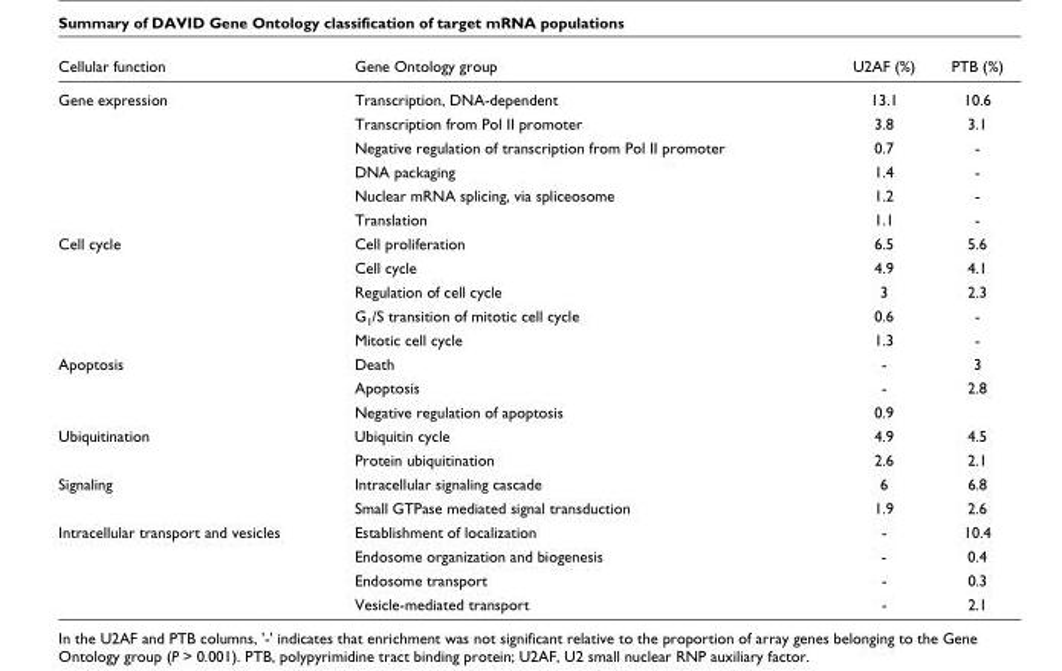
<table><thead><tr><td>Cellular function</td><td>Gene Ontology group</td><td>U2AF (%)</td><td>PTB (%)</td></tr></thead><tbody><tr><td rowspan="6">Gene expression</td><td>Transcription, DNA-dependent</td><td>13.1</td><td>10.6</td></tr><tr><td>Transcription from Pol II promoter</td><td>3.8</td><td>3.1</td></tr><tr><td>Negative regulation of transcription from Pol II promoter</td><td>0.7</td><td>-</td></tr><tr><td>DNA packaging</td><td>1.4</td><td>-</td></tr><tr><td>Nuclear mRNA splicing, via spliceosome</td><td>1.2</td><td>-</td></tr><tr><td>Translation</td><td>1.1</td><td>-</td></tr><tr><td rowspan="5">Cell cycle</td><td>Cell proliferation</td><td>6.5</td><td>5.6</td></tr><tr><td>Cell cycle</td><td>4.9</td><td>4.1</td></tr><tr><td>Regulation of cell cycle</td><td>3</td><td>2.3</td></tr><tr><td>G1/S transition of mitotic cell cycle</td><td>0.6</td><td>-</td></tr><tr><td>Mitotic cell cycle</td><td>1.3</td><td>-</td></tr><tr><td rowspan="3">Apoptosis</td><td>Death</td><td>-</td><td>3</td></tr><tr><td>Apoptosis</td><td>-</td><td>2.8</td></tr><tr><td>Negative regulation of apoptosis</td><td>0.9</td><td></td></tr><tr><td rowspan="2">Ubiquitination</td><td>Ubiquitin cycle</td><td>4.9</td><td>4.5</td></tr><tr><td>Protein ubiquitination</td><td>2.6</td><td>2.1</td></tr><tr><td rowspan="2">Signaling</td><td>Intracellular signaling cascade</td><td>6</td><td>6.8</td></tr><tr><td>Small GTPase mediated signal transduction</td><td>1.9</td><td>2.6</td></tr><tr><td rowspan="4">Intracellular transport and vesicles</td><td>Establishment of localization</td><td>-</td><td>10.4</td></tr><tr><td>Endosome organization and biogenesis</td><td>-</td><td>0.4</td></tr><tr><td>Endosome transport</td><td>-</td><td>0.3</td></tr><tr><td>Vesicle-mediated transport</td><td>-</td><td>2.1</td></tr></tbody></table>